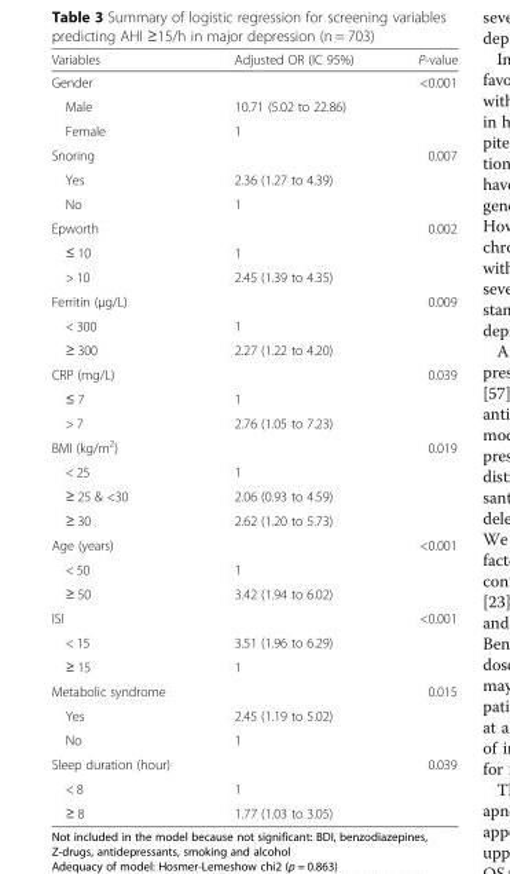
<table><thead><tr><td>Variables</td><td>Adjusted OR (IC 95%)</td><td>P-value</td></tr></thead><tbody><tr><td colspan="2">Gender</td><td rowspan="3">&lt;0.001</td></tr><tr><td>Male</td><td>10.71 (5.02 to 22.86)</td></tr><tr><td>Female</td><td>1</td></tr><tr><td colspan="2">Snoring</td><td rowspan="3">0.007</td></tr><tr><td>Yes</td><td>2.36 (1.27 to 4.39)</td></tr><tr><td>No</td><td>1</td></tr><tr><td colspan="2">Epworth</td><td rowspan="3">0.002</td></tr><tr><td>≤ 10</td><td>1</td></tr><tr><td>&gt; 10</td><td>2.45 (1.39 to 4.35)</td></tr><tr><td colspan="2">Ferritin (μg/L)</td><td rowspan="3">0.009</td></tr><tr><td>&lt; 300</td><td>1</td></tr><tr><td>≥ 300</td><td>2.27 (1.22 to 4.20)</td></tr><tr><td colspan="2">CRP (mg/L)</td><td rowspan="3">0.039</td></tr><tr><td>≤ 7</td><td>1</td></tr><tr><td>&gt; 7</td><td>2.76 (1.05 to 7.23)</td></tr><tr><td colspan="2">BMI (kg/m<sup>2</sup>)</td><td rowspan="4">0.019</td></tr><tr><td>&lt; 25</td><td>1</td></tr><tr><td>≥ 25 &amp; &lt;30</td><td>2.06 (0.93 to 4.59)</td></tr><tr><td>≥ 30</td><td>2.62 (1.20 to 5.73)</td></tr><tr><td colspan="2">Age (years)</td><td rowspan="3">&lt;0.001</td></tr><tr><td>&lt; 50</td><td>1</td></tr><tr><td>≥ 50</td><td>3.42 (1.94 to 6.02)</td></tr><tr><td colspan="2">ISI</td><td rowspan="3">&lt;0.001</td></tr><tr><td>&lt; 15</td><td>3.51 (1.96 to 6.29)</td></tr><tr><td>≥ 15</td><td>1</td></tr><tr><td colspan="2">Metabolic syndrome</td><td rowspan="3">0.015</td></tr><tr><td>Yes</td><td>2.45 (1.19 to 5.02)</td></tr><tr><td>No</td><td>1</td></tr><tr><td colspan="2">Sleep duration (hour)</td><td rowspan="3">0.039</td></tr><tr><td>&lt; 8</td><td>1</td></tr><tr><td>≥ 8</td><td>1.77 (1.03 to 3.05)</td></tr></tbody></table>